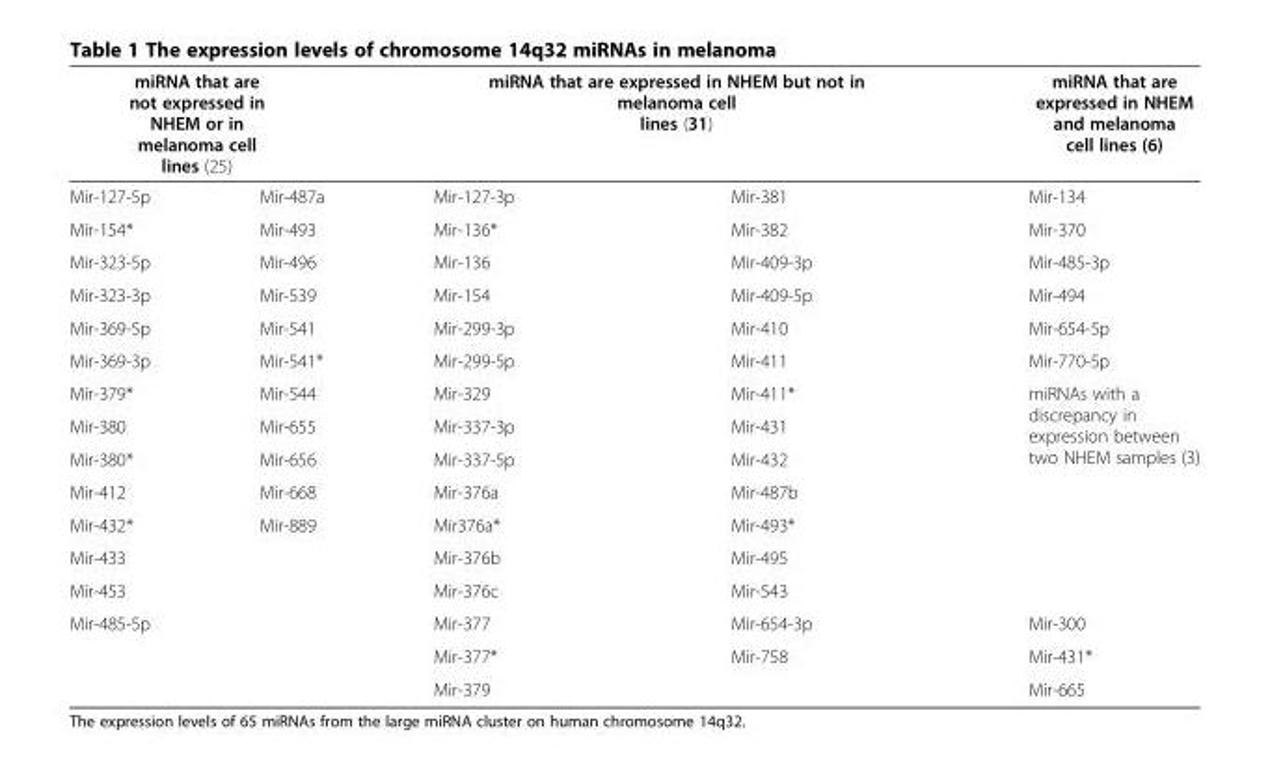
<table><thead><tr><td colspan="2">miRNA that are not expressed in NHEM or in melanoma cell lines (25)</td><td colspan="2">miRNA that are expressed in NHEM but not in melanoma cell lines (31)</td><td rowspan="2">miRNA that are expressed in NHEM and melanoma cell lines (6) Mir-134</td></tr><tr><td>Mir-127-5p</td><td>Mir-487a</td><td>Mir-127-3p</td><td>Mir-381</td></tr></thead><tbody><tr><td>Mir-154*</td><td>Mir-493</td><td>Mir-136*</td><td>Mir-382</td><td>Mir-370</td></tr><tr><td>Mir-323-5p</td><td>Mir-496</td><td>Mir-136</td><td>Mir-409-3p</td><td>Mir-485-3p</td></tr><tr><td>Mir-323-3p</td><td>Mir-539</td><td>Mir-154</td><td>Mir-409-5p</td><td>Mir-494</td></tr><tr><td>Mir-369-5p</td><td>Mir-541</td><td>Mir-299-3p</td><td>Mir-410</td><td>Mir-654-5p</td></tr><tr><td>Mir-369-3p</td><td>Mir-541*</td><td>Mir-299-5p</td><td>Mir-411</td><td>Mir-770-5p</td></tr><tr><td>Mir-379*</td><td>Mir-544</td><td>Mir-329</td><td>Mir-411*</td><td rowspan="7">miRNAs with a discrepancy in expression between two NHEM samples (3)</td></tr><tr><td>Mir-380</td><td>Mir-655</td><td>Mir-337-3p</td><td>Mir-431</td></tr><tr><td>Mir-380*</td><td>Mir-656</td><td>Mir-337-5p</td><td>Mir-432</td></tr><tr><td>Mir-412</td><td>Mir-668</td><td>Mir-376a</td><td>Mir-487b</td></tr><tr><td>Mir-432*</td><td>Mir-889</td><td>Mir376a*</td><td>Mir-493*</td></tr><tr><td>Mir-433</td><td></td><td>Mir-376b</td><td>Mir-495</td></tr><tr><td>Mir-453</td><td></td><td>Mir-376c</td><td>Mir-543</td></tr><tr><td rowspan="3">Mir-485-5p</td><td></td><td>Mir-377</td><td>Mir-654-3p</td><td>Mir-300</td></tr><tr><td></td><td>Mir-377*</td><td>Mir-758</td><td>Mir-431*</td></tr><tr><td></td><td>Mir-379</td><td></td><td>Mir-665</td></tr></tbody></table>